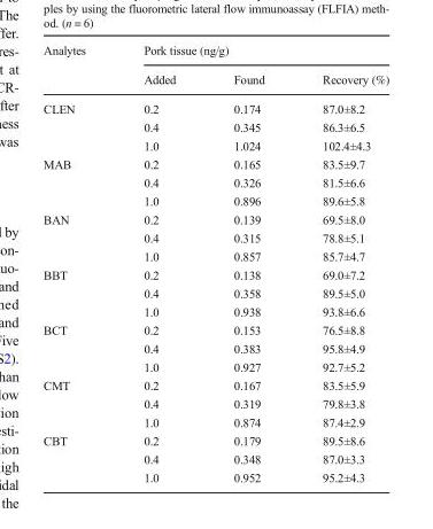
<table><thead><tr><td rowspan="2">Analytes</td><td colspan="3">Pork tissue (ng/g)</td></tr><tr><td>Added</td><td>Found</td><td>Recovery (%)</td></tr></thead><tbody><tr><td rowspan="3">CLEN</td><td>0.2</td><td>0.174</td><td>87.0±8.2</td></tr><tr><td>0.4</td><td>0.345</td><td>86.3±6.5</td></tr><tr><td>1.0</td><td>1.024</td><td>102.4±4.3</td></tr><tr><td rowspan="3">MAB</td><td>0.2</td><td>0.165</td><td>83.5±9.7</td></tr><tr><td>0.4</td><td>0.326</td><td>81.5±6.6</td></tr><tr><td>1.0</td><td>0.896</td><td>89.6±5.8</td></tr><tr><td rowspan="3">BAN</td><td>0.2</td><td>0.139</td><td>69.5±8.0</td></tr><tr><td>0.4</td><td>0.315</td><td>78.8±5.1</td></tr><tr><td>1.0</td><td>0.857</td><td>85.7±4.7</td></tr><tr><td rowspan="3">BBT</td><td>0.2</td><td>0.138</td><td>69.0±7.2</td></tr><tr><td>0.4</td><td>0.358</td><td>89.5±5.0</td></tr><tr><td>1.0</td><td>0.938</td><td>93.8±6.6</td></tr><tr><td rowspan="3">BCT</td><td>0.2</td><td>0.153</td><td>76.5±8.8</td></tr><tr><td>0.4</td><td>0.383</td><td>95.8±4.9</td></tr><tr><td>1.0</td><td>0.927</td><td>92.7±5.2</td></tr><tr><td rowspan="3">CMT</td><td>0.2</td><td>0.167</td><td>83.5±5.9</td></tr><tr><td>0.4</td><td>0.319</td><td>79.8±3.8</td></tr><tr><td>1.0</td><td>0.874</td><td>87.4±2.9</td></tr><tr><td rowspan="3">CBT</td><td>0.2</td><td>0.179</td><td>89.5±8.6</td></tr><tr><td>0.4</td><td>0.348</td><td>87.0±3.3</td></tr><tr><td>1.0</td><td>0.952</td><td>95.2±4.3</td></tr></tbody></table>